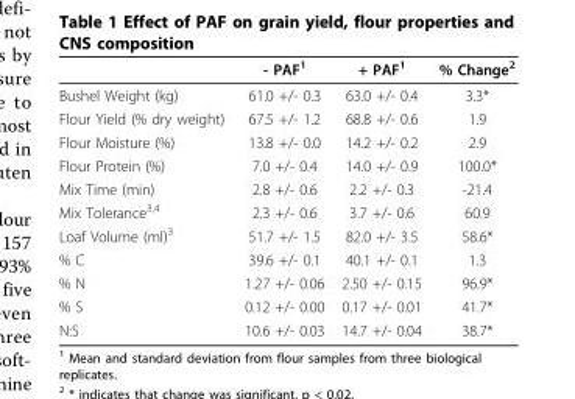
<table><thead><tr><td></td><td>- PAF<sup>1</sup></td><td>+ PAF<sup>1</sup></td><td>% Change<sup>2</sup></td></tr></thead><tbody><tr><td>Bushel Weight (kg)</td><td>61.0 +/- 0.3</td><td>63.0 +/- 0.4</td><td>3.3*</td></tr><tr><td>Flour Yield (% dry weight)</td><td>67.5 +/- 1.2</td><td>68.8 +/- 0.6</td><td>1.9</td></tr><tr><td>Flour Moisture (%)</td><td>13.8 +/- 0.0</td><td>14.2 +/- 0.2</td><td>2.9</td></tr><tr><td>Flour Protein (%)</td><td>7.0 +/- 0.4</td><td>14.0 +/- 0.9</td><td>100.0*</td></tr><tr><td>Mix Time (min)</td><td>2.8 +/- 0.6</td><td>2.2 +/- 0.3</td><td>-21.4</td></tr><tr><td>Mix Tolerance<sup>3,4</sup></td><td>2.3 +/- 0.6</td><td>3.7 +/- 0.6</td><td>60.9</td></tr><tr><td>Loaf Volume (ml)<sup>3</sup></td><td>51.7 +/- 1.5</td><td>82.0 +/- 3.5</td><td>58.6*</td></tr><tr><td>% C</td><td>39.6 +/- 0.1</td><td>40.1 +/- 0.1</td><td>1.3</td></tr><tr><td>% N</td><td>1.27 +/- 0.06</td><td>2.50 +/- 0.15</td><td>96.9*</td></tr><tr><td>% S</td><td>0.12 +/- 0.00</td><td>0.17 +/- 0.01</td><td>41.7*</td></tr><tr><td>N:S</td><td>10.6 +/- 0.03</td><td>14.7 +/- 0.04</td><td>38.7*</td></tr></tbody></table>